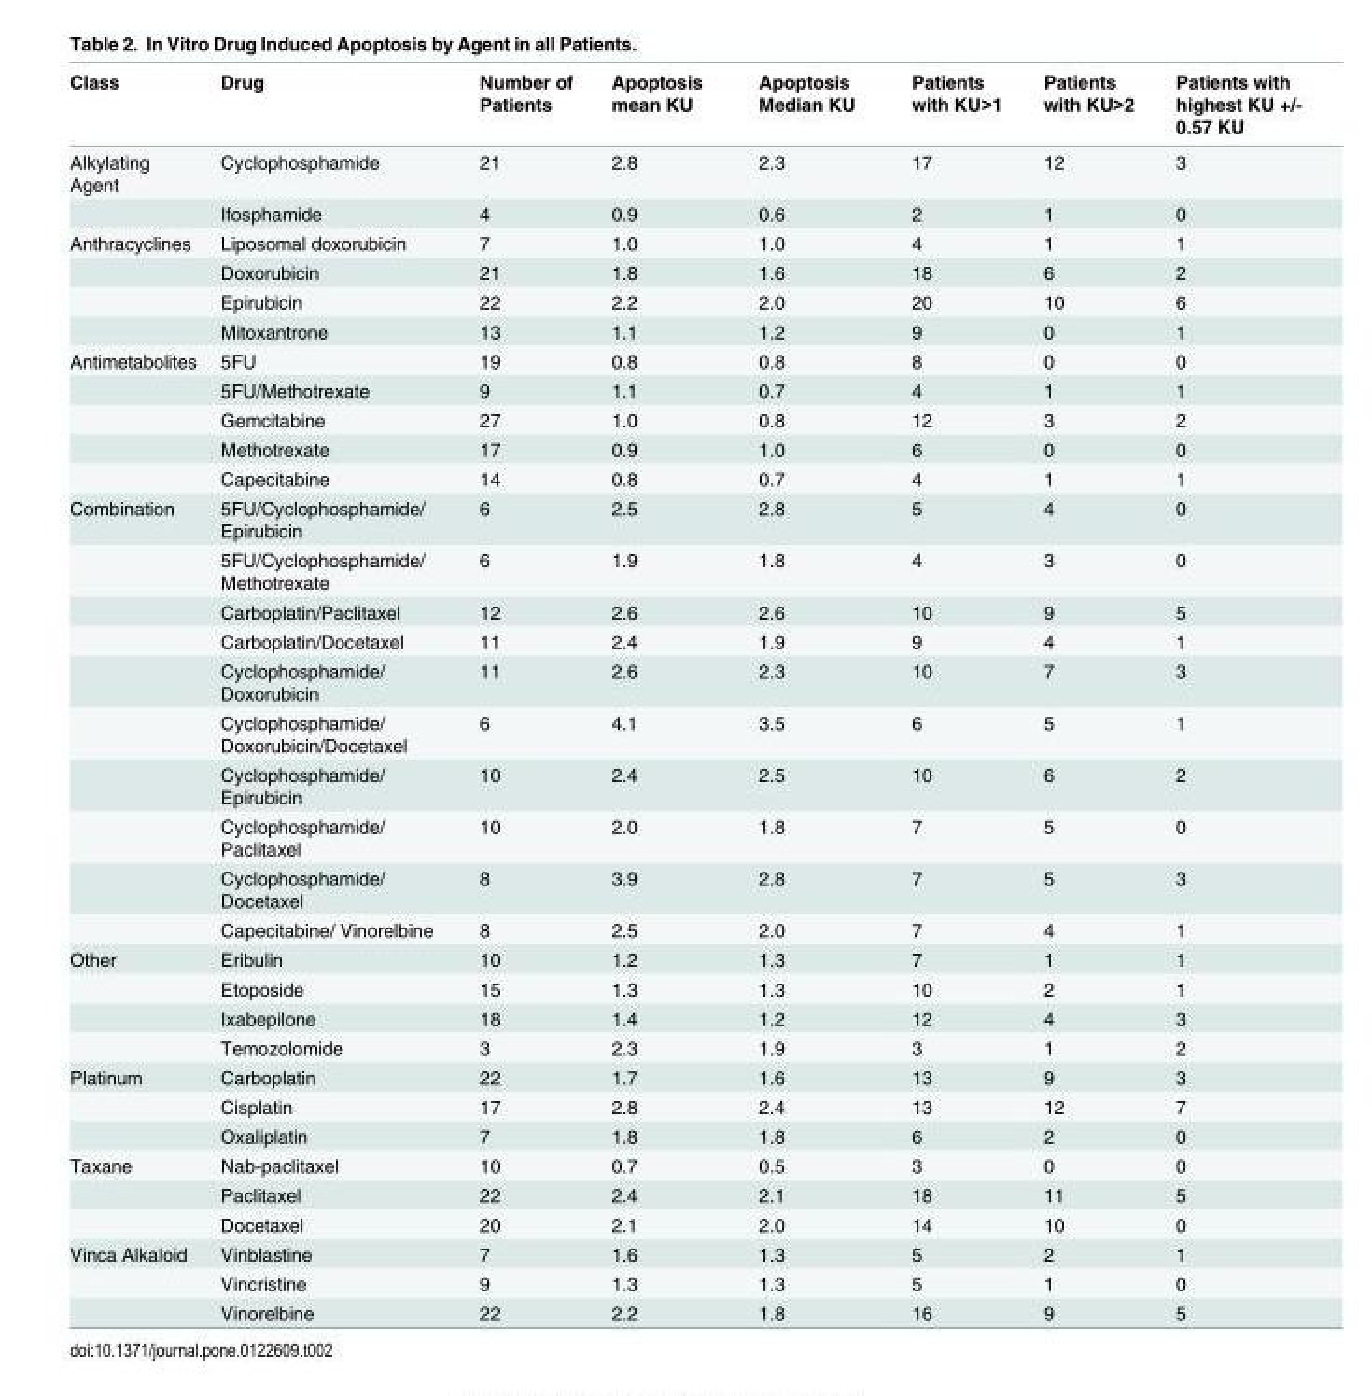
<table><thead><tr><td>Class</td><td>Drug</td><td>Number of Patients</td><td>Apoptosis mean KU</td><td>Apoptosis Median KU</td><td>Patients with KU&gt;1</td><td>Patients with KU&gt;2</td><td>Patients with highest KU +/- 0.57 KU</td></tr></thead><tbody><tr><td rowspan="2">Alkylating Agent</td><td>Cyclophosphamide</td><td>21</td><td>2.8</td><td>2.3</td><td>17</td><td>12</td><td>3</td></tr><tr><td>Ifosphamide</td><td>4</td><td>0.9</td><td>0.6</td><td>2</td><td>1</td><td>0</td></tr><tr><td rowspan="4">Anthracyclines</td><td>Liposomal doxorubicin</td><td>7</td><td>1.0</td><td>1.0</td><td>4</td><td>1</td><td>1</td></tr><tr><td>Doxorubicin</td><td>21</td><td>1.8</td><td>1.6</td><td>18</td><td>6</td><td>2</td></tr><tr><td>Epirubicin</td><td>22</td><td>2.2</td><td>2.0</td><td>20</td><td>10</td><td>6</td></tr><tr><td>Mitoxantrone</td><td>13</td><td>1.1</td><td>1.2</td><td>9</td><td>0</td><td>1</td></tr><tr><td rowspan="5">Antimetabolites</td><td>5FU</td><td>19</td><td>0.8</td><td>0.8</td><td>8</td><td>0</td><td>0</td></tr><tr><td>5FU/Methotrexate</td><td>9</td><td>1.1</td><td>0.7</td><td>4</td><td>1</td><td>1</td></tr><tr><td>Gemcitabine</td><td>27</td><td>1.0</td><td>0.8</td><td>12</td><td>3</td><td>2</td></tr><tr><td>Methotrexate</td><td>17</td><td>0.9</td><td>1.0</td><td>6</td><td>0</td><td>0</td></tr><tr><td>Capecitabine</td><td>14</td><td>0.8</td><td>0.7</td><td>4</td><td>1</td><td>1</td></tr><tr><td rowspan="10">Combination</td><td>5FU/Cyclophosphamide/ Epirubicin</td><td>6</td><td>2.5</td><td>2.8</td><td>5</td><td>4</td><td>0</td></tr><tr><td>5FU/Cyclophosphamide/ Methotrexate</td><td>6</td><td>1.9</td><td>1.8</td><td>4</td><td>3</td><td>0</td></tr><tr><td>Carboplatin/Paclitaxel</td><td>12</td><td>2.6</td><td>2.6</td><td>10</td><td>9</td><td>5</td></tr><tr><td>Carboplatin/Docetaxel</td><td>11</td><td>2.4</td><td>1.9</td><td>9</td><td>4</td><td>1</td></tr><tr><td>Cyclophosphamide/ Doxorubicin</td><td>11</td><td>2.6</td><td>2.3</td><td>10</td><td>7</td><td>3</td></tr><tr><td>Cyclophosphamide/ Doxorubicin/Docetaxel</td><td>6</td><td>4.1</td><td>3.5</td><td>6</td><td>5</td><td>1</td></tr><tr><td>Cyclophosphamide/ Epirubicin</td><td>10</td><td>2.4</td><td>2.5</td><td>10</td><td>6</td><td>2</td></tr><tr><td>Cyclophosphamide/ Paclitaxel</td><td>10</td><td>2.0</td><td>1.8</td><td>7</td><td>5</td><td>0</td></tr><tr><td>Cyclophosphamide/ Docetaxel</td><td>8</td><td>3.9</td><td>2.8</td><td>7</td><td>5</td><td>3</td></tr><tr><td>Capecitabine/ Vinorelbine</td><td>8</td><td>2.5</td><td>2.0</td><td>7</td><td>4</td><td>1</td></tr><tr><td rowspan="4">Other</td><td>Eribulin</td><td>10</td><td>1.2</td><td>1.3</td><td>7</td><td>1</td><td>1</td></tr><tr><td>Etoposide</td><td>15</td><td>1.3</td><td>1.3</td><td>10</td><td>2</td><td>1</td></tr><tr><td>Ixabepilone</td><td>18</td><td>1.4</td><td>1.2</td><td>12</td><td>4</td><td>3</td></tr><tr><td>Temozolomide</td><td>3</td><td>2.3</td><td>1.9</td><td>3</td><td>1</td><td>2</td></tr><tr><td rowspan="3">Platinum</td><td>Carboplatin</td><td>22</td><td>1.7</td><td>1.6</td><td>13</td><td>9</td><td>3</td></tr><tr><td>Cisplatin</td><td>17</td><td>2.8</td><td>2.4</td><td>13</td><td>12</td><td>7</td></tr><tr><td>Oxaliplatin</td><td>7</td><td>1.8</td><td>1.8</td><td>6</td><td>2</td><td>0</td></tr><tr><td rowspan="3">Taxane</td><td>Nab-paclitaxel</td><td>10</td><td>0.7</td><td>0.5</td><td>3</td><td>0</td><td>0</td></tr><tr><td>Paclitaxel</td><td>22</td><td>2.4</td><td>2.1</td><td>18</td><td>11</td><td>5</td></tr><tr><td>Docetaxel</td><td>20</td><td>2.1</td><td>2.0</td><td>14</td><td>10</td><td>0</td></tr><tr><td rowspan="3">Vinca Alkaloid</td><td>Vinblastine</td><td>7</td><td>1.6</td><td>1.3</td><td>5</td><td>2</td><td>1</td></tr><tr><td>Vincristine</td><td>9</td><td>1.3</td><td>1.3</td><td>5</td><td>1</td><td>0</td></tr><tr><td>Vinorelbine</td><td>22</td><td>2.2</td><td>1.8</td><td>16</td><td>9</td><td>5</td></tr></tbody></table>